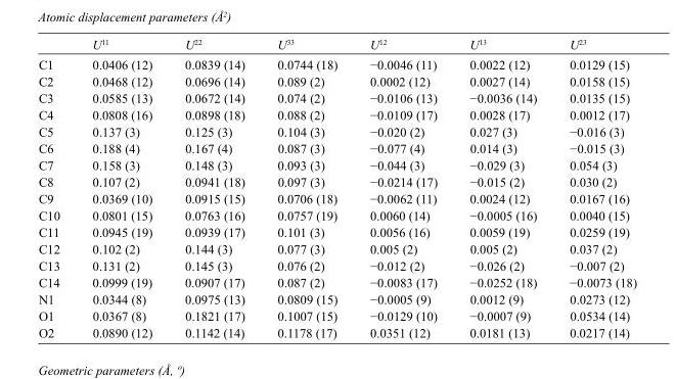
<table><thead><tr><td></td><td>U<sup>11</sup></td><td>U<sup>22</sup></td><td>U<sup>33</sup></td><td>U<sup>12</sup></td><td>U<sup>13</sup></td><td>U<sup>23</sup></td></tr></thead><tbody><tr><td>C1</td><td>0.0406 (12)</td><td>0.0839 (14)</td><td>0.0744 (18)</td><td>−0.0046 (11)</td><td>0.0022 (12)</td><td>0.0129 (15)</td></tr><tr><td>C2</td><td>0.0468 (12)</td><td>0.0696 (14)</td><td>0.089 (2)</td><td>0.0002 (12)</td><td>0.0027 (14)</td><td>0.0158 (15)</td></tr><tr><td>C3</td><td>0.0585 (13)</td><td>0.0672 (14)</td><td>0.074 (2)</td><td>−0.0106 (13)</td><td>−0.0036 (14)</td><td>0.0135 (15)</td></tr><tr><td>C4</td><td>0.0808 (16)</td><td>0.0898 (18)</td><td>0.088 (2)</td><td>−0.0109 (17)</td><td>0.0028 (17)</td><td>0.0012 (17)</td></tr><tr><td>C5</td><td>0.137 (3)</td><td>0.125 (3)</td><td>0.104 (3)</td><td>−0.020 (2)</td><td>0.027 (3)</td><td>−0.016 (3)</td></tr><tr><td>C6</td><td>0.188 (4)</td><td>0.167 (4)</td><td>0.087 (3)</td><td>−0.077 (4)</td><td>0.014 (3)</td><td>−0.015 (3)</td></tr><tr><td>C7</td><td>0.158 (3)</td><td>0.148 (3)</td><td>0.093 (3)</td><td>−0.044 (3)</td><td>−0.029 (3)</td><td>0.054 (3)</td></tr><tr><td>C8</td><td>0.107 (2)</td><td>0.0941 (18)</td><td>0.097 (3)</td><td>−0.0214 (17)</td><td>−0.015 (2)</td><td>0.030 (2)</td></tr><tr><td>C9</td><td>0.0369 (10)</td><td>0.0915 (15)</td><td>0.0706 (18)</td><td>−0.0062 (11)</td><td>0.0024 (12)</td><td>0.0167 (16)</td></tr><tr><td>C10</td><td>0.0801 (15)</td><td>0.0763 (16)</td><td>0.0757 (19)</td><td>0.0060 (14)</td><td>−0.0005 (16)</td><td>0.0040 (15)</td></tr><tr><td>C11</td><td>0.0945 (19)</td><td>0.0939 (17)</td><td>0.101 (3)</td><td>0.0056 (16)</td><td>0.0059 (19)</td><td>0.0259 (19)</td></tr><tr><td>C12</td><td>0.102 (2)</td><td>0.144 (3)</td><td>0.077 (3)</td><td>0.005 (2)</td><td>0.005 (2)</td><td>0.037 (2)</td></tr><tr><td>C13</td><td>0.131 (2)</td><td>0.145 (3)</td><td>0.076 (2)</td><td>−0.012 (2)</td><td>−0.026 (2)</td><td>−0.007 (2)</td></tr><tr><td>C14</td><td>0.0999 (19)</td><td>0.0907 (17)</td><td>0.087 (2)</td><td>−0.0083 (17)</td><td>−0.0252 (18)</td><td>−0.0073 (18)</td></tr><tr><td>N1</td><td>0.0344 (8)</td><td>0.0975 (13)</td><td>0.0809 (15)</td><td>−0.0005 (9)</td><td>0.0012 (9)</td><td>0.0273 (12)</td></tr><tr><td>O1</td><td>0.0367 (8)</td><td>0.1821 (17)</td><td>0.1007 (15)</td><td>−0.0129 (10)</td><td>−0.0007 (9)</td><td>0.0534 (14)</td></tr><tr><td>O2</td><td>0.0890 (12)</td><td>0.1142 (14)</td><td>0.1178 (17)</td><td>0.0351 (12)</td><td>0.0181 (13)</td><td>0.0217 (14)</td></tr></tbody></table>